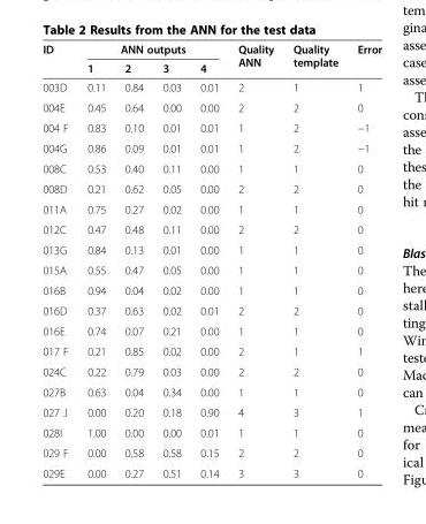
<table><thead><tr><td rowspan="2">ID</td><td colspan="4">ANN outputs</td><td rowspan="2">Quality ANN</td><td rowspan="2">Quality template</td><td rowspan="2">Error</td></tr><tr><td>1</td><td>2</td><td>3</td><td>4</td></tr></thead><tbody><tr><td>003D</td><td>0.11</td><td>0.84</td><td>0.03</td><td>0.01</td><td>2</td><td>1</td><td>1</td></tr><tr><td>004E</td><td>0.45</td><td>0.64</td><td>0.00</td><td>0.00</td><td>2</td><td>2</td><td>0</td></tr><tr><td>004 F</td><td>0.83</td><td>0.10</td><td>0.01</td><td>0.01</td><td>1</td><td>2</td><td>−1</td></tr><tr><td>004G</td><td>0.86</td><td>0.09</td><td>0.01</td><td>0.01</td><td>1</td><td>2</td><td>−1</td></tr><tr><td>008C</td><td>0.53</td><td>0.40</td><td>0.11</td><td>0.00</td><td>1</td><td>1</td><td>0</td></tr><tr><td>008D</td><td>0.21</td><td>0.62</td><td>0.05</td><td>0.00</td><td>2</td><td>2</td><td>0</td></tr><tr><td>011A</td><td>0.75</td><td>0.27</td><td>0.02</td><td>0.00</td><td>1</td><td>1</td><td>0</td></tr><tr><td>012C</td><td>0.47</td><td>0.48</td><td>0.11</td><td>0.00</td><td>2</td><td>2</td><td>0</td></tr><tr><td>013G</td><td>0.84</td><td>0.13</td><td>0.01</td><td>0.00</td><td>1</td><td>1</td><td>0</td></tr><tr><td>015A</td><td>0.55</td><td>0.47</td><td>0.05</td><td>0.00</td><td>1</td><td>1</td><td>0</td></tr><tr><td>016B</td><td>0.94</td><td>0.04</td><td>0.02</td><td>0.00</td><td>1</td><td>1</td><td>0</td></tr><tr><td>016D</td><td>0.37</td><td>0.63</td><td>0.02</td><td>0.01</td><td>2</td><td>2</td><td>0</td></tr><tr><td>016E</td><td>0.74</td><td>0.07</td><td>0.21</td><td>0.00</td><td>1</td><td>1</td><td>0</td></tr><tr><td>017 F</td><td>0.21</td><td>0.85</td><td>0.02</td><td>0.00</td><td>2</td><td>1</td><td>1</td></tr><tr><td>024C</td><td>0.22</td><td>0.79</td><td>0.03</td><td>0.00</td><td>2</td><td>2</td><td>0</td></tr><tr><td>027B</td><td>0.63</td><td>0.04</td><td>0.34</td><td>0.00</td><td>1</td><td>1</td><td>0</td></tr><tr><td>027 J</td><td>0.00</td><td>0.20</td><td>0.18</td><td>0.90</td><td>4</td><td>3</td><td>1</td></tr><tr><td>028I</td><td>1.00</td><td>0.00</td><td>0.00</td><td>0.01</td><td>1</td><td>1</td><td>0</td></tr><tr><td>029 F</td><td>0.00</td><td>0.58</td><td>0.58</td><td>0.15</td><td>2</td><td>2</td><td>0</td></tr><tr><td>029E</td><td>0.00</td><td>0.27</td><td>0.51</td><td>0.14</td><td>3</td><td>3</td><td>0</td></tr></tbody></table>